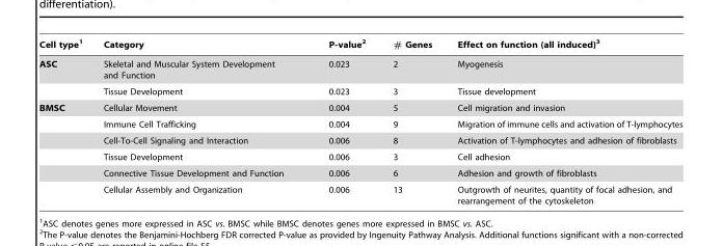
<table><thead><tr><td>Cell type<sup>1</sup></td><td>Category</td><td>P-value<sup>2</sup></td><td># Genes</td><td>Effect on function (all induced)<sup>3</sup></td></tr></thead><tbody><tr><td rowspan="2">ASC</td><td>Skeletal and Muscular System Development and Function</td><td>0.023</td><td>2</td><td>Myogenesis</td></tr><tr><td>Tissue Development</td><td>0.023</td><td>3</td><td>Tissue development</td></tr><tr><td rowspan="6">BMSC</td><td>Cellular Movement</td><td>0.004</td><td>5</td><td>Cell migration and invasion</td></tr><tr><td>Immune Cell Trafficking</td><td>0.004</td><td>9</td><td>Migration of immune cells and activation of T-lymphocytes</td></tr><tr><td>Cell-To-Cell Signaling and Interaction</td><td>0.006</td><td>8</td><td>Activation of T-lymphocytes and adhesion of fibroblasts</td></tr><tr><td>Tissue Development</td><td>0.006</td><td>3</td><td>Cell adhesion</td></tr><tr><td>Connective Tissue Development and Function</td><td>0.006</td><td>6</td><td>Adhesion and growth of fibroblasts</td></tr><tr><td>Cellular Assembly and Organization</td><td>0.006</td><td>13</td><td>Outgrowth of neurites, quantity of focal adhesion, and rearrangement of the cytoskeleton</td></tr></tbody></table>